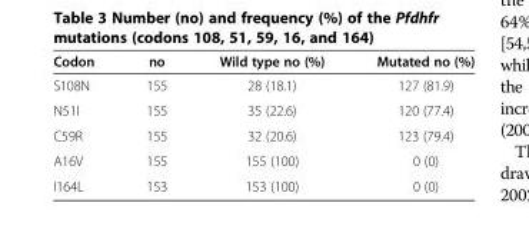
<table><thead><tr><td>Codon</td><td>no</td><td>Wild type no (%)</td><td>Mutated no (%)</td></tr></thead><tbody><tr><td>S108N</td><td>155</td><td>28 (18.1)</td><td>127 (81.9)</td></tr><tr><td>N51I</td><td>155</td><td>35 (22.6)</td><td>120 (77.4)</td></tr><tr><td>C59R</td><td>155</td><td>32 (20.6)</td><td>123 (79.4)</td></tr><tr><td>A16V</td><td>155</td><td>155 (100)</td><td>0 (0)</td></tr><tr><td>I164L</td><td>153</td><td>153 (100)</td><td>0 (0)</td></tr></tbody></table>